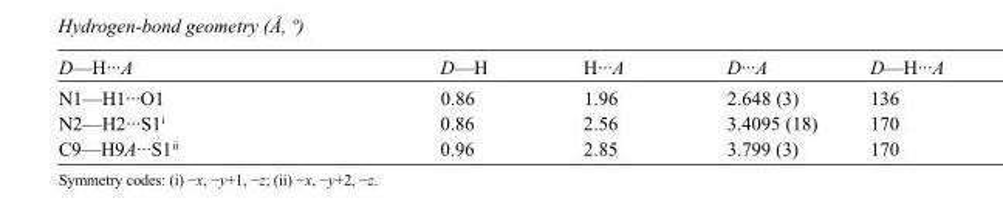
<table><tbody><tr><td>D—H···A</td><td>D—H</td><td>H···A</td><td>D···A</td><td>D—H···A</td></tr><tr><td>N1—H1···O1</td><td>0.86</td><td>1.96</td><td>2.648 (3)</td><td>136</td></tr><tr><td>N2—H2···S1<sup>i</sup></td><td>0.86</td><td>2.56</td><td>3.4095 (18)</td><td>170</td></tr><tr><td>C9—H9A···S1<sup>ii</sup></td><td>0.96</td><td>2.85</td><td>3.799 (3)</td><td>170</td></tr></tbody></table>